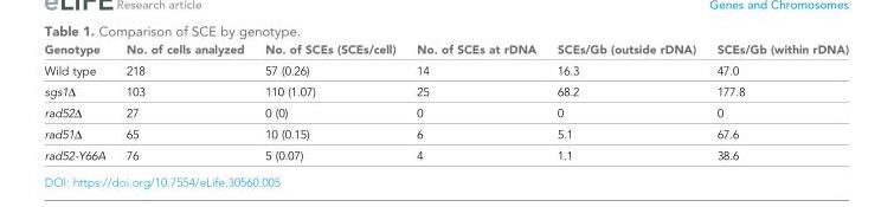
<table><thead><tr><td>Genotype</td><td>No. of cells analyzed</td><td>No. of SCEs (SCEs/cell)</td><td>No. of SCEs at rDNA</td><td>SCEs/Gb (outside rDNA)</td><td>SCEs/Gb (within rDNA)</td></tr></thead><tbody><tr><td>Wild type</td><td>218</td><td>57 (0.26)</td><td>14</td><td>16.3</td><td>47.0</td></tr><tr><td>sgs1∆</td><td>103</td><td>110 (1.07)</td><td>25</td><td>68.2</td><td>177.8</td></tr><tr><td>rad52∆</td><td>27</td><td>0 (0)</td><td>0</td><td>0</td><td>0</td></tr><tr><td>rad51∆</td><td>65</td><td>10 (0.15)</td><td>6</td><td>5.1</td><td>67.6</td></tr><tr><td>rad52-Y66A</td><td>76</td><td>5 (0.07)</td><td>4</td><td>1.1</td><td>38.6</td></tr></tbody></table>